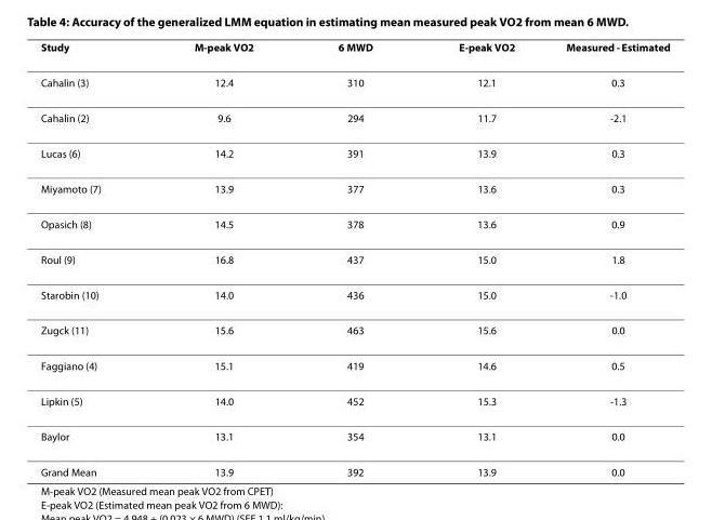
<table><thead><tr><td>Study</td><td>M-peak VO2</td><td>6 MWD</td><td>E-peak VO2</td><td>Measured - Estimated</td></tr></thead><tbody><tr><td>Cahalin (3)</td><td>12.4</td><td>310</td><td>12.1</td><td>0.3</td></tr><tr><td>Cahalin (2)</td><td>9.6</td><td>294</td><td>11.7</td><td>-2.1</td></tr><tr><td>Lucas (6)</td><td>14.2</td><td>391</td><td>13.9</td><td>0.3</td></tr><tr><td>Miyamoto (7)</td><td>13.9</td><td>377</td><td>13.6</td><td>0.3</td></tr><tr><td>Opasich (8)</td><td>14.5</td><td>378</td><td>13.6</td><td>0.9</td></tr><tr><td>Roul (9)</td><td>16.8</td><td>437</td><td>15.0</td><td>1.8</td></tr><tr><td>Starobin (10)</td><td>14.0</td><td>436</td><td>15.0</td><td>-1.0</td></tr><tr><td>Zugck (11)</td><td>15.6</td><td>463</td><td>15.6</td><td>0.0</td></tr><tr><td>Faggiano (4)</td><td>15.1</td><td>419</td><td>14.6</td><td>0.5</td></tr><tr><td>Lipkin (5)</td><td>14.0</td><td>452</td><td>15.3</td><td>-1.3</td></tr><tr><td>Baylor</td><td>13.1</td><td>354</td><td>13.1</td><td>0.0</td></tr><tr><td>Grand Mean</td><td>13.9</td><td>392</td><td>13.9</td><td>0.0</td></tr></tbody></table>